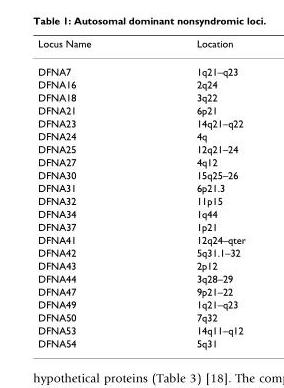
<table><thead><tr><td>Locus Name</td><td>Location</td></tr></thead><tbody><tr><td>DFNA7</td><td>1q21–q23</td></tr><tr><td>DFNA16</td><td>2q24</td></tr><tr><td>DFNA18</td><td>3q22</td></tr><tr><td>DFNA21</td><td>6p21</td></tr><tr><td>DFNA23</td><td>14q21–q22</td></tr><tr><td>DFNA24</td><td>4q</td></tr><tr><td>DFNA25</td><td>12q21–24</td></tr><tr><td>DFNA27</td><td>4q12</td></tr><tr><td>DFNA30</td><td>15q25–26</td></tr><tr><td>DFNA31</td><td>6p21.3</td></tr><tr><td>DFNA32</td><td>11p15</td></tr><tr><td>DFNA34</td><td>1q44</td></tr><tr><td>DFNA37</td><td>1p21</td></tr><tr><td>DFNA41</td><td>12q24–qter</td></tr><tr><td>DFNA42</td><td>5q31.1–32</td></tr><tr><td>DFNA43</td><td>2p12</td></tr><tr><td>DFNA44</td><td>3q28–29</td></tr><tr><td>DFNA47</td><td>9p21–22</td></tr><tr><td>DFNA49</td><td>1q21–q23</td></tr><tr><td>DFNA50</td><td>7q32</td></tr><tr><td>DFNA53</td><td>14q11–q12</td></tr><tr><td>DFNA54</td><td>5q31</td></tr></tbody></table>